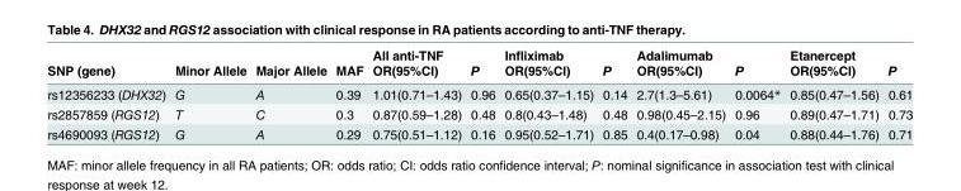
<table><thead><tr><td rowspan="2">SNP (gene)</td><td rowspan="2">Minor Allele</td><td rowspan="2">Major Allele</td><td rowspan="2">MAF</td><td rowspan="2">All anti-TNF OR(95%CI)</td><td rowspan="2">P</td><td rowspan="2">Infliximab OR(95%CI)</td><td rowspan="2">P</td><td rowspan="2">Adalimumab OR(95%CI)</td><td rowspan="2">P</td><td rowspan="2">Etanercept OR(95%CI)</td><td rowspan="2">P</td></tr><tr></tr></thead><tbody><tr><td>rs12356233 (DHX32)</td><td>G</td><td>A</td><td>0.39</td><td>1.01(0.71–1.43)</td><td>0.96</td><td>0.65(0.37–1.15)</td><td>0.14</td><td>2.7(1.3–5.61)</td><td>0.0064*</td><td>0.85(0.47–1.56)</td><td>0.61</td></tr><tr><td>rs2857859 (RGS12)</td><td>T</td><td>C</td><td>0.3</td><td>0.87(0.59–1.28)</td><td>0.48</td><td>0.8(0.43–1.48)</td><td>0.48</td><td>0.98(0.45–2.15)</td><td>0.96</td><td>0.89(0.47–1.71)</td><td>0.73</td></tr><tr><td>rs4690093 (RGS12)</td><td>G</td><td>A</td><td>0.29</td><td>0.75(0.51–1.12)</td><td>0.16</td><td>0.95(0.52–1.71)</td><td>0.85</td><td>0.4(0.17–0.98)</td><td>0.04</td><td>0.88(0.44–1.76)</td><td>0.71</td></tr></tbody></table>